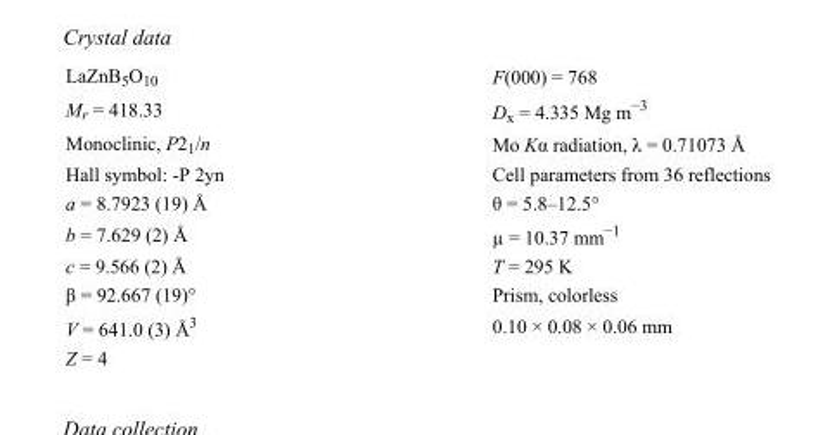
<table><tbody><tr><td>LaZnB<sub>5</sub>O<sub>10</sub></td><td>F(000) = 768</td></tr><tr><td>M<sub>r</sub> = 418.33</td><td>D<sub>x</sub> = 4.335 Mg m<sup>−3</sup></td></tr><tr><td>Monoclinic, P2<sub>1</sub>/n</td><td>Mo Kα radiation, λ = 0.71073 Å</td></tr><tr><td>Hall symbol: -P 2yn</td><td>Cell parameters from 36 reflections</td></tr><tr><td>a = 8.7923 (19) Å</td><td>θ = 5.8–12.5°</td></tr><tr><td>b = 7.629 (2) Å</td><td>µ = 10.37 mm<sup>−1</sup></td></tr><tr><td>c = 9.566 (2) Å</td><td>T = 295 K</td></tr><tr><td>β = 92.667 (19)°</td><td>Prism, colorless</td></tr><tr><td>V = 641.0 (3) Å<sup>3</sup></td><td>0.10 × 0.08 × 0.06 mm</td></tr><tr><td>Z = 4</td><td></td></tr></tbody></table>